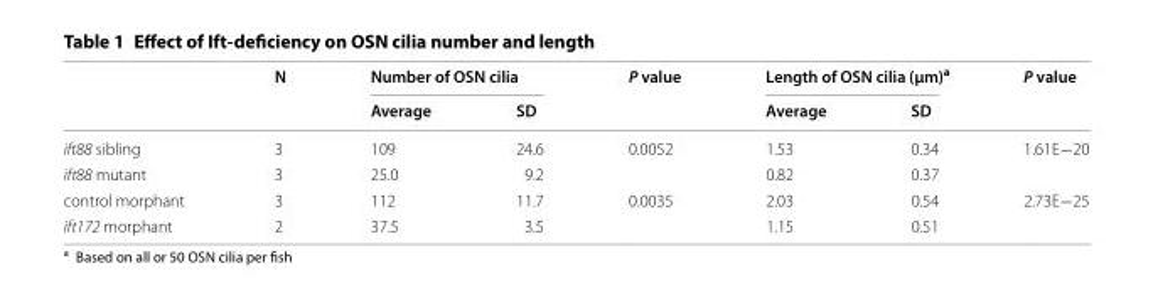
<table><thead><tr><td rowspan="2"></td><td rowspan="2">N</td><td colspan="2">Number of OSN cilia</td><td rowspan="2">P value</td><td colspan="2">Length of OSN cilia (µm)<sup>a</sup></td><td rowspan="2">P value</td></tr><tr><td>Average</td><td>SD</td><td>Average</td><td>SD</td></tr></thead><tbody><tr><td>ift88 sibling</td><td>3</td><td>109</td><td>24.6</td><td rowspan="2">0.0052</td><td>1.53</td><td>0.34</td><td rowspan="2">1.61E−20</td></tr><tr><td>ift88 mutant</td><td>3</td><td>25.0</td><td>9.2</td><td>0.82</td><td>0.37</td></tr><tr><td>control morphant</td><td>3</td><td>112</td><td>11.7</td><td rowspan="2">0.0035</td><td>2.03</td><td>0.54</td><td rowspan="2">2.73E−25</td></tr><tr><td>ift172 morphant</td><td>2</td><td>37.5</td><td>3.5</td><td>1.15</td><td>0.51</td></tr></tbody></table>